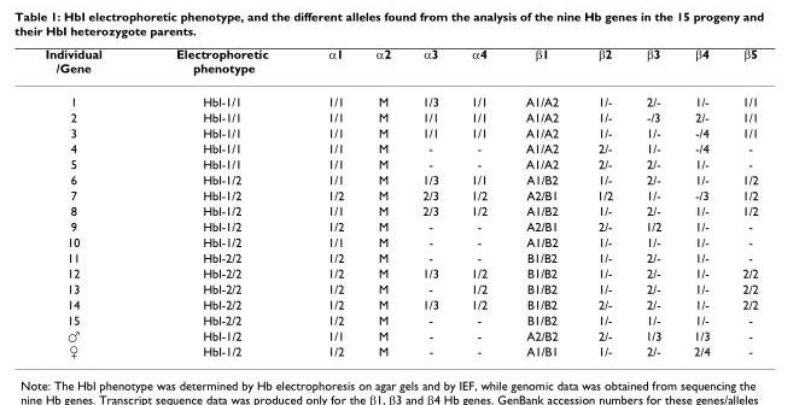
<table><thead><tr><td>Individual /Gene</td><td>Electrophoretic phenotype</td><td>α1</td><td>α2</td><td>α3</td><td>α4</td><td>β1</td><td>β2</td><td>β3</td><td>β4</td><td>β5</td></tr></thead><tbody><tr><td>1</td><td>HbI-1/1</td><td>1/1</td><td>M</td><td>1/3</td><td>1/1</td><td>A1/A2</td><td>1/-</td><td>2/-</td><td>1/-</td><td>1/1</td></tr><tr><td>2</td><td>HbI-1/1</td><td>1/1</td><td>M</td><td>1/1</td><td>1/1</td><td>A1/A2</td><td>1/-</td><td>-/3</td><td>2/-</td><td>1/1</td></tr><tr><td>3</td><td>HbI-1/1</td><td>1/1</td><td>M</td><td>1/1</td><td>1/1</td><td>A1/A2</td><td>1/-</td><td>1/-</td><td>-/4</td><td>1/1</td></tr><tr><td>4</td><td>HbI-1/1</td><td>1/1</td><td>M</td><td>-</td><td>-</td><td>A1/A2</td><td>2/-</td><td>1/-</td><td>-/4</td><td>-</td></tr><tr><td>5</td><td>HbI-1/1</td><td>1/1</td><td>M</td><td>-</td><td>-</td><td>A1/A2</td><td>2/-</td><td>2/-</td><td>1/-</td><td>-</td></tr><tr><td>6</td><td>HbI-1/2</td><td>1/1</td><td>M</td><td>1/3</td><td>1/1</td><td>A1/B2</td><td>1/-</td><td>2/-</td><td>1/-</td><td>1/2</td></tr><tr><td>7</td><td>HbI-1/2</td><td>1/2</td><td>M</td><td>2/3</td><td>1/2</td><td>A2/B1</td><td>1/2</td><td>1/-</td><td>-/3</td><td>1/2</td></tr><tr><td>8</td><td>HbI-1/2</td><td>1/1</td><td>M</td><td>2/3</td><td>1/2</td><td>A1/B2</td><td>1/-</td><td>2/-</td><td>1/-</td><td>1/2</td></tr><tr><td>9</td><td>HbI-1/2</td><td>1/2</td><td>M</td><td>-</td><td>-</td><td>A2/B1</td><td>2/-</td><td>1/2</td><td>1/-</td><td>-</td></tr><tr><td>10</td><td>HbI-1/2</td><td>1/1</td><td>M</td><td>-</td><td>-</td><td>A1/B2</td><td>1/-</td><td>1/-</td><td>1/-</td><td>-</td></tr><tr><td>11</td><td>HbI-2/2</td><td>1/2</td><td>M</td><td>-</td><td>-</td><td>B1/B2</td><td>1/-</td><td>2/-</td><td>1/-</td><td>-</td></tr><tr><td>12</td><td>HbI-2/2</td><td>1/2</td><td>M</td><td>1/3</td><td>1/2</td><td>B1/B2</td><td>1/-</td><td>2/-</td><td>1/-</td><td>2/2</td></tr><tr><td>13</td><td>HbI-2/2</td><td>1/2</td><td>M</td><td>-</td><td>1/2</td><td>B1/B2</td><td>1/-</td><td>2/-</td><td>1/-</td><td>2/2</td></tr><tr><td>14</td><td>HbI-2/2</td><td>1/2</td><td>M</td><td>1/3</td><td>1/2</td><td>B1/B2</td><td>2/-</td><td>2/-</td><td>1/-</td><td>2/2</td></tr><tr><td>15</td><td>HbI-2/2</td><td>1/2</td><td>M</td><td>-</td><td>-</td><td>B1/B2</td><td>1/-</td><td>1/-</td><td>1/-</td><td>-</td></tr><tr><td>♂</td><td>HbI-1/2</td><td>1/1</td><td>M</td><td>-</td><td>-</td><td>A2/B2</td><td>2/-</td><td>1/3</td><td>1/3</td><td>-</td></tr><tr><td>♀</td><td>HbI-1/2</td><td>1/2</td><td>M</td><td>-</td><td>-</td><td>A1/B1</td><td>1/-</td><td>2/-</td><td>2/4</td><td>-</td></tr></tbody></table>